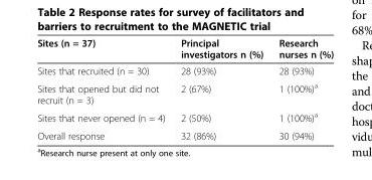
<table><thead><tr><td>Sites (n = 37)</td><td>Principal investigators n (%)</td><td>Research nurses n (%)</td></tr></thead><tbody><tr><td>Sites that recruited (n = 30)</td><td>28 (93%)</td><td>28 (93%)</td></tr><tr><td>Sites that opened but did not recruit (n = 3)</td><td>2 (67%)</td><td>1 (100%)<sup>a</sup></td></tr><tr><td>Sites that never opened (n = 4)</td><td>2 (50%)</td><td>1 (100%)<sup>a</sup></td></tr><tr><td>Overall response</td><td>32 (86%)</td><td>30 (94%)</td></tr></tbody></table>